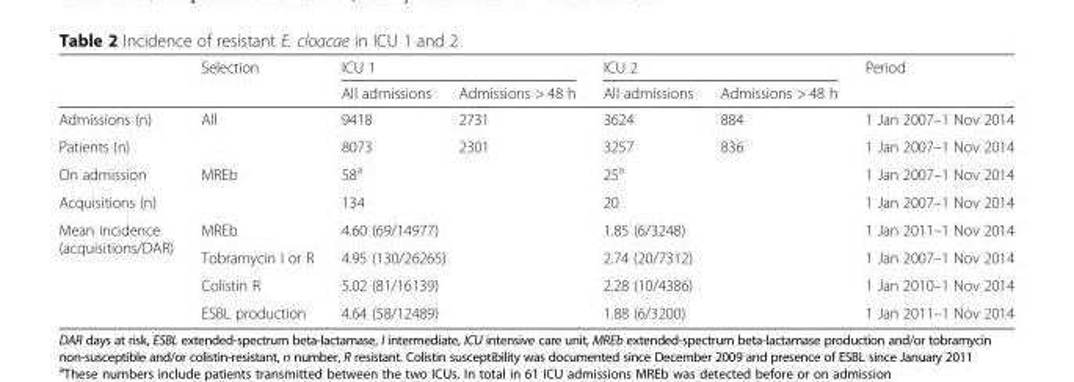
<table><thead><tr><td rowspan="2"></td><td rowspan="2">Selection</td><td colspan="2">ICU 1</td><td colspan="2">ICU 2</td><td rowspan="2">Period</td></tr><tr><td>All admissions</td><td>Admissions &gt; 48 h</td><td>All admissions</td><td>Admissions &gt; 48 h</td></tr></thead><tbody><tr><td>Admissions (n)</td><td rowspan="2">All</td><td>9418</td><td>2731</td><td>3624</td><td>884</td><td>1 Jan 2007–1 Nov 2014</td></tr><tr><td>Patients (n)</td><td>8073</td><td>2301</td><td>3257</td><td>836</td><td>1 Jan 2007–1 Nov 2014</td></tr><tr><td>On admission</td><td rowspan="2">MREb</td><td colspan="2">58<sup>a</sup></td><td colspan="2">25<sup>a</sup></td><td>1 Jan 2007–1 Nov 2014</td></tr><tr><td>Acquisitions (n)</td><td colspan="2">134</td><td colspan="2">20</td><td>1 Jan 2007–1 Nov 2014</td></tr><tr><td rowspan="4">Mean incidence (acquisitions/DAR)</td><td>MREb</td><td colspan="2">4.60 (69/14977)</td><td colspan="2">1.85 (6/3248)</td><td>1 Jan 2011–1 Nov 2014</td></tr><tr><td>Tobramycin I or R</td><td colspan="2">4.95 (130/26265)</td><td colspan="2">2.74 (20/7312)</td><td>1 Jan 2007–1 Nov 2014</td></tr><tr><td>Colistin R</td><td colspan="2">5.02 (81/16139)</td><td colspan="2">2.28 (10/4386)</td><td>1 Jan 2010–1 Nov 2014</td></tr><tr><td>ESBL production</td><td colspan="2">4.64 (58/12489)</td><td colspan="2">1.88 (6/3200)</td><td>1 Jan 2011–1 Nov 2014</td></tr></tbody></table>